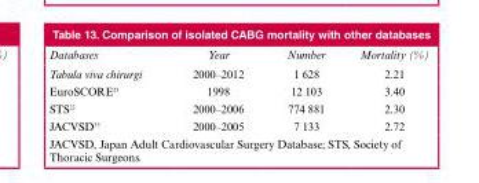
<table><thead><tr><td>Databases</td><td>Year</td><td>Number</td><td>Mortality (%)</td></tr></thead><tbody><tr><td>Tabula viva chirurgi</td><td>2000–2012</td><td>1 628</td><td>2.21</td></tr><tr><td>EuroSCORE<sup>23</sup></td><td>1998</td><td>12 103</td><td>3.40</td></tr><tr><td>STS<sup>22</sup></td><td>2000–2006</td><td>774 881</td><td>2.30</td></tr><tr><td>JACVSD<sup>35</sup></td><td>2000–2005</td><td>7 133</td><td>2.72</td></tr></tbody></table>